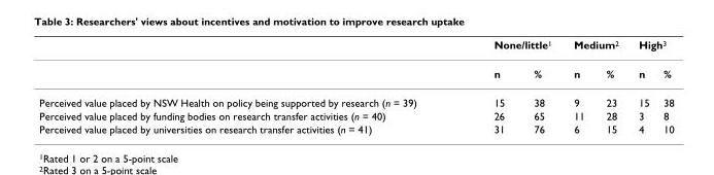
<table><thead><tr><td rowspan="2"></td><td colspan="2">None/little<sup>1</sup></td><td colspan="2">Medium<sup>2</sup></td><td colspan="2">High<sup>3</sup></td></tr><tr><td>n</td><td>%</td><td>n</td><td>%</td><td>n</td><td>%</td></tr></thead><tbody><tr><td>Perceived value placed by NSW Health on policy being supported by research (n = 39)</td><td>15</td><td>38</td><td>9</td><td>23</td><td>15</td><td>38</td></tr><tr><td>Perceived value placed by funding bodies on research transfer activities (n = 40)</td><td>26</td><td>65</td><td>11</td><td>28</td><td>3</td><td>8</td></tr><tr><td>Perceived value placed by universities on research transfer activities (n = 41)</td><td>31</td><td>76</td><td>6</td><td>15</td><td>4</td><td>10</td></tr></tbody></table>